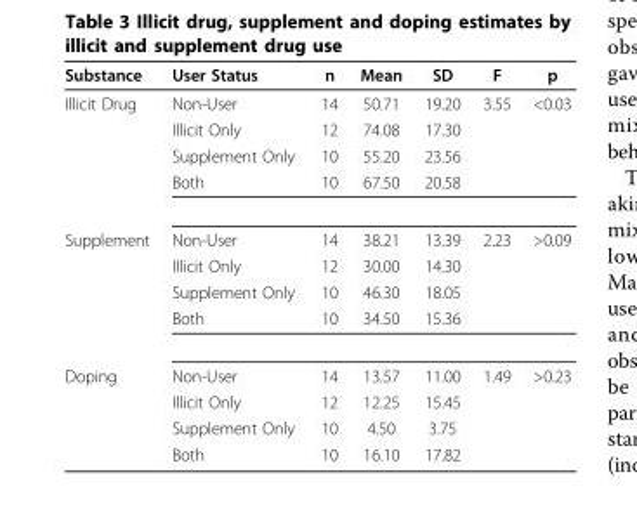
<table><thead><tr><td>Substance</td><td>User Status</td><td>n</td><td>Mean</td><td>SD</td><td>F</td><td>p</td></tr></thead><tbody><tr><td rowspan="4">Illicit Drug</td><td>Non-User</td><td>14</td><td>50.71</td><td>19.20</td><td>3.55</td><td>&lt;0.03</td></tr><tr><td>Illicit Only</td><td>12</td><td>74.08</td><td>17.30</td><td></td><td></td></tr><tr><td>Supplement Only</td><td>10</td><td>55.20</td><td>23.56</td><td></td><td></td></tr><tr><td>Both</td><td>10</td><td>67.50</td><td>20.58</td><td></td><td></td></tr><tr><td rowspan="4">Supplement</td><td>Non-User</td><td>14</td><td>38.21</td><td>13.39</td><td>2.23</td><td>&gt;0.09</td></tr><tr><td>Illicit Only</td><td>12</td><td>30.00</td><td>14.30</td><td></td><td></td></tr><tr><td>Supplement Only</td><td>10</td><td>46.30</td><td>18.05</td><td></td><td></td></tr><tr><td>Both</td><td>10</td><td>34.50</td><td>15.36</td><td></td><td></td></tr><tr><td rowspan="4">Doping</td><td>Non-User</td><td>14</td><td>13.57</td><td>11.00</td><td>1.49</td><td>&gt;0.23</td></tr><tr><td>Illicit Only</td><td>12</td><td>12.25</td><td>15.45</td><td></td><td></td></tr><tr><td>Supplement Only</td><td>10</td><td>4.50</td><td>3.75</td><td></td><td></td></tr><tr><td>Both</td><td>10</td><td>16.10</td><td>17.82</td><td></td><td></td></tr></tbody></table>